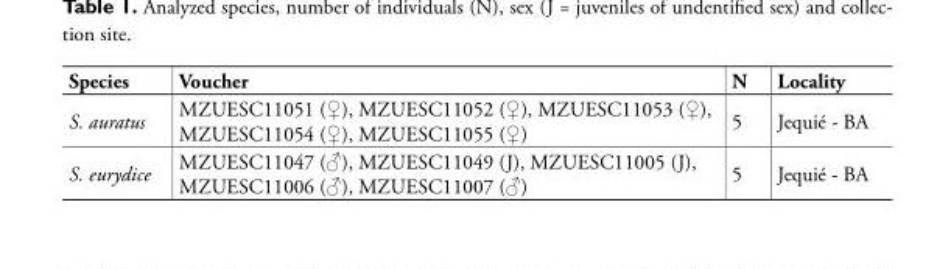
<table><thead><tr><td>Species</td><td>Voucher</td><td>N</td><td>Locality</td></tr></thead><tbody><tr><td>S. auratus</td><td>MZUESC11051 (♀), MZUESC11052 (♀), MZUESC11053 (♀), MZUESC11054 (♀), MZUESC11055 (♀)</td><td>5</td><td>Jequié - BA</td></tr><tr><td>S. eurydice</td><td>MZUESC11047 (♂), MZUESC11049 (J), MZUESC11005 (J), MZUESC11006 (♂), MZUESC11007 (♂)</td><td>5</td><td>Jequié - BA</td></tr></tbody></table>